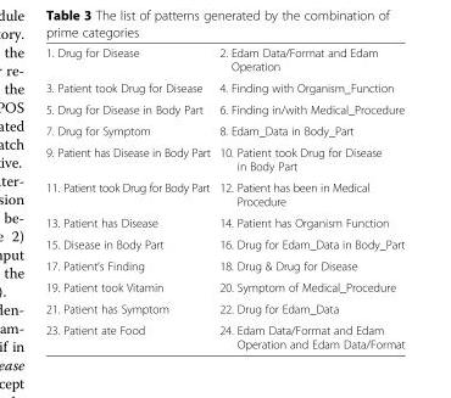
<table><tbody><tr><td>1. Drug for Disease</td><td>2. Edam Data/Format and Edam Operation</td></tr><tr><td>3. Patient took Drug for Disease</td><td>4. Finding with Organism_Function</td></tr><tr><td>5. Drug for Disease in Body Part</td><td>6. Finding in/with Medical_Procedure</td></tr><tr><td>7. Drug for Symptom</td><td>8. Edam_Data in Body_Part</td></tr><tr><td>9. Patient has Disease in Body Part</td><td>10. Patient took Drug for Disease in Body Part</td></tr><tr><td>11. Patient took Drug for Body Part</td><td>12. Patient has been in Medical Procedure</td></tr><tr><td>13. Patient has Disease</td><td>14. Patient has Organism Function</td></tr><tr><td>15. Disease in Body Part</td><td>16. Drug for Edam_Data in Body_Part</td></tr><tr><td>17. Patient’s Finding</td><td>18. Drug &amp; Drug for Disease</td></tr><tr><td>19. Patient took Vitamin</td><td>20. Symptom of Medical_Procedure</td></tr><tr><td>21. Patient has Symptom</td><td>22. Drug for Edam_Data</td></tr><tr><td>23. Patient ate Food</td><td>24. Edam Data/Format and Edam Operation and Edam Data/Format</td></tr></tbody></table>